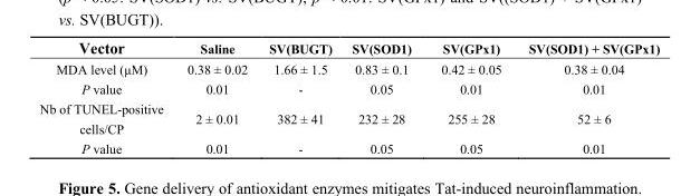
<table><thead><tr><td>Vector</td><td>Saline</td><td>SV(BUGT)</td><td>SV(SOD1)</td><td>SV(GPx1)</td><td>SV(SOD1) + SV(GPx1)</td></tr></thead><tbody><tr><td>MDA level (μM)</td><td>0.38 ± 0.02</td><td>1.66 ± 1.5</td><td>0.83 ± 0.1</td><td>0.42 ± 0.05</td><td>0.38 ± 0.04</td></tr><tr><td>P value</td><td>0.01</td><td>-</td><td>0.05</td><td>0.01</td><td>0.01</td></tr><tr><td>Nb of TUNEL-positive cells/CP</td><td>2 ± 0.01</td><td>382 ± 41</td><td>232 ± 28</td><td>255 ± 28</td><td>52 ± 6</td></tr><tr><td>P value</td><td>0.01</td><td>-</td><td>0.05</td><td>0.05</td><td>0.01</td></tr></tbody></table>